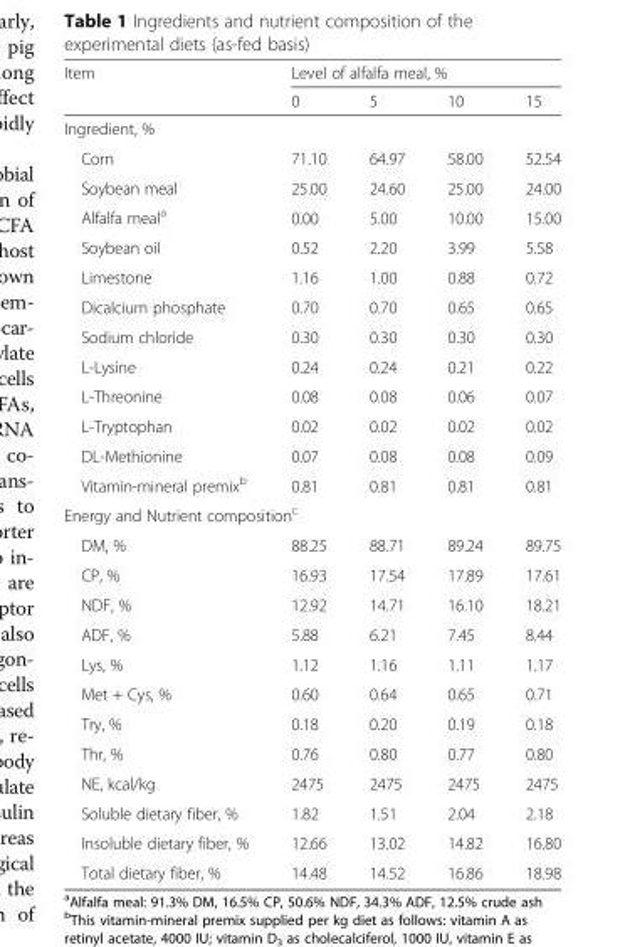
<table><thead><tr><td rowspan="2">Item</td><td colspan="4">Level of alfalfa meal, %</td></tr><tr><td>0</td><td>5</td><td>10</td><td>15</td></tr></thead><tbody><tr><td colspan="5">Ingredient, %</td></tr><tr><td>Corn</td><td>71.10</td><td>64.97</td><td>58.00</td><td>52.54</td></tr><tr><td>Soybean meal</td><td>25.00</td><td>24.60</td><td>25.00</td><td>24.00</td></tr><tr><td>Alfalfa meal<sup>a</sup></td><td>0.00</td><td>5.00</td><td>10.00</td><td>15.00</td></tr><tr><td>Soybean oil</td><td>0.52</td><td>2.20</td><td>3.99</td><td>5.58</td></tr><tr><td>Limestone</td><td>1.16</td><td>1.00</td><td>0.88</td><td>0.72</td></tr><tr><td>Dicalcium phosphate</td><td>0.70</td><td>0.70</td><td>0.65</td><td>0.65</td></tr><tr><td>Sodium chloride</td><td>0.30</td><td>0.30</td><td>0.30</td><td>0.30</td></tr><tr><td>L-Lysine</td><td>0.24</td><td>0.24</td><td>0.21</td><td>0.22</td></tr><tr><td>L-Threonine</td><td>0.08</td><td>0.08</td><td>0.06</td><td>0.07</td></tr><tr><td>L-Tryptophan</td><td>0.02</td><td>0.02</td><td>0.02</td><td>0.02</td></tr><tr><td>DL-Methionine</td><td>0.07</td><td>0.08</td><td>0.08</td><td>0.09</td></tr><tr><td>Vitamin-mineral premix<sup>b</sup></td><td>0.81</td><td>0.81</td><td>0.81</td><td>0.81</td></tr><tr><td colspan="5">Energy and Nutrient composition<sup>c</sup></td></tr><tr><td>DM, %</td><td>88.25</td><td>88.71</td><td>89.24</td><td>89.75</td></tr><tr><td>CP, %</td><td>16.93</td><td>17.54</td><td>17.89</td><td>17.61</td></tr><tr><td>NDF, %</td><td>12.92</td><td>14.71</td><td>16.10</td><td>18.21</td></tr><tr><td>ADF, %</td><td>5.88</td><td>6.21</td><td>7.45</td><td>8.44</td></tr><tr><td>Lys, %</td><td>1.12</td><td>1.16</td><td>1.11</td><td>1.17</td></tr><tr><td>Met + Cys, %</td><td>0.60</td><td>0.64</td><td>0.65</td><td>0.71</td></tr><tr><td>Try, %</td><td>0.18</td><td>0.20</td><td>0.19</td><td>0.18</td></tr><tr><td>Thr, %</td><td>0.76</td><td>0.80</td><td>0.77</td><td>0.80</td></tr><tr><td>NE, kcal/kg</td><td>2475</td><td>2475</td><td>2475</td><td>2475</td></tr><tr><td>Soluble dietary fiber, %</td><td>1.82</td><td>1.51</td><td>2.04</td><td>2.18</td></tr><tr><td>Insoluble dietary fiber, %</td><td>12.66</td><td>13.02</td><td>14.82</td><td>16.80</td></tr><tr><td>Total dietary fiber, %</td><td>14.48</td><td>14.52</td><td>16.86</td><td>18.98</td></tr></tbody></table>